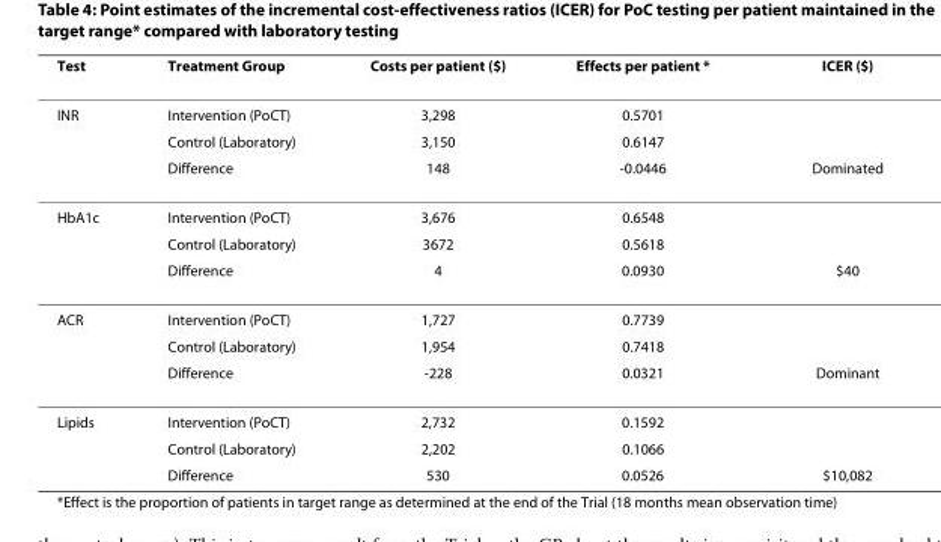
<table><thead><tr><td>Test</td><td>Treatment Group</td><td>Costs per patient ($)</td><td>Effects per patient *</td><td>ICER ($)</td></tr></thead><tbody><tr><td rowspan="3">INR</td><td>Intervention (PoCT)</td><td>3,298</td><td>0.5701</td><td></td></tr><tr><td>Control (Laboratory)</td><td>3,150</td><td>0.6147</td><td></td></tr><tr><td>Difference</td><td>148</td><td>-0.0446</td><td>Dominated</td></tr><tr><td rowspan="3">HbA1c</td><td>Intervention (PoCT)</td><td>3,676</td><td>0.6548</td><td></td></tr><tr><td>Control (Laboratory)</td><td>3672</td><td>0.5618</td><td></td></tr><tr><td>Difference</td><td>4</td><td>0.0930</td><td>$40</td></tr><tr><td rowspan="3">ACR</td><td>Intervention (PoCT)</td><td>1,727</td><td>0.7739</td><td></td></tr><tr><td>Control (Laboratory)</td><td>1,954</td><td>0.7418</td><td></td></tr><tr><td>Difference</td><td>-228</td><td>0.0321</td><td>Dominant</td></tr><tr><td rowspan="3">Lipids</td><td>Intervention (PoCT)</td><td>2,732</td><td>0.1592</td><td></td></tr><tr><td>Control (Laboratory)</td><td>2,202</td><td>0.1066</td><td></td></tr><tr><td>Difference</td><td>530</td><td>0.0526</td><td>$10,082</td></tr></tbody></table>